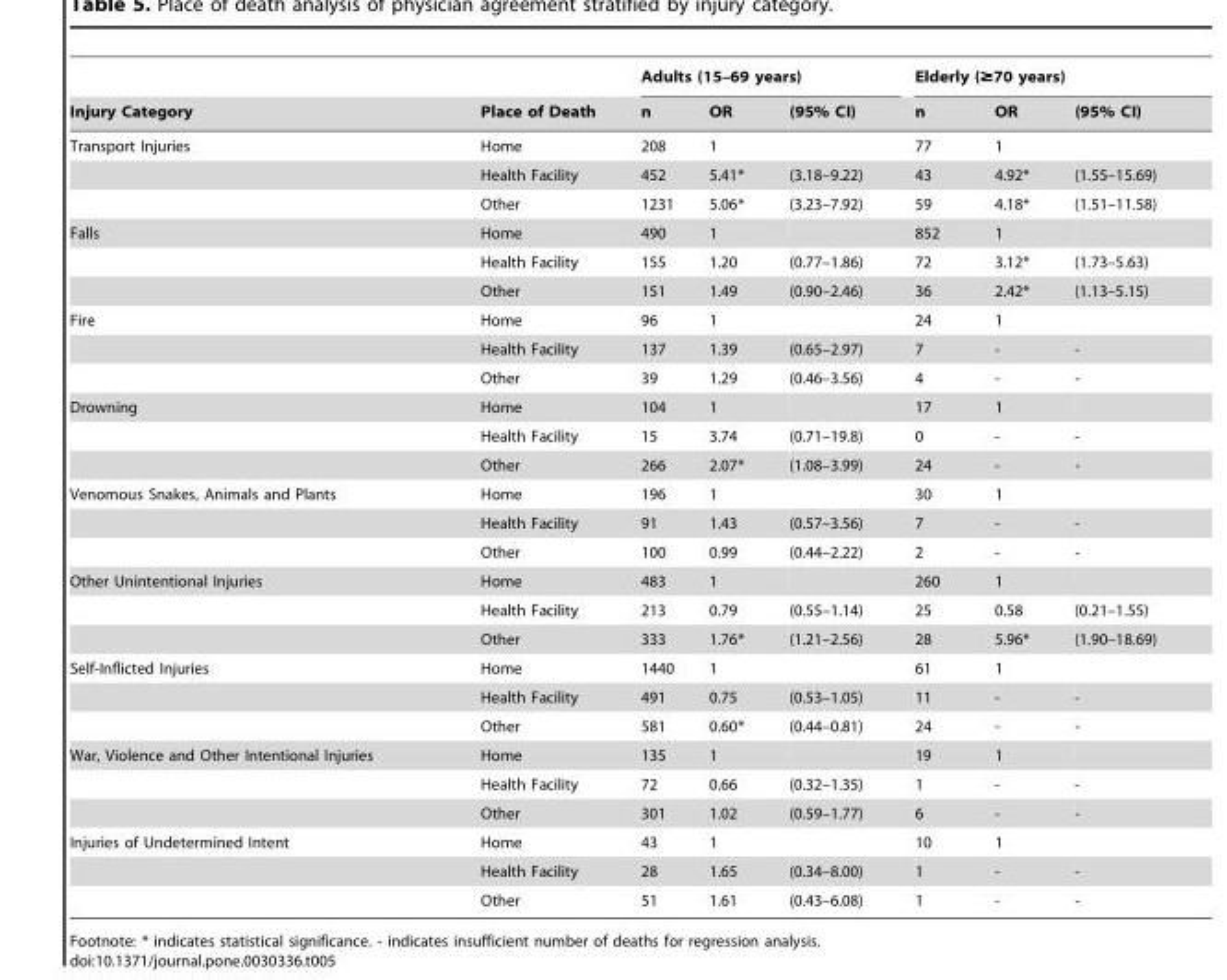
<table><thead><tr><td rowspan="2">Injury Category</td><td rowspan="2">Place of Death</td><td colspan="3">Adults (15–69 years)</td><td colspan="3">Elderly (≥70 years)</td></tr><tr><td>n</td><td>OR</td><td>(95% CI)</td><td>n</td><td>OR</td><td>(95% CI)</td></tr></thead><tbody><tr><td rowspan="3">Transport Injuries</td><td>Home</td><td>208</td><td>1</td><td></td><td>77</td><td>1</td><td></td></tr><tr><td>Health Facility</td><td>452</td><td>5.41*</td><td>(3.18–9.22)</td><td>43</td><td>4.92*</td><td>(1.55–15.69)</td></tr><tr><td>Other</td><td>1231</td><td>5.06*</td><td>(3.23–7.92)</td><td>59</td><td>4.18*</td><td>(1.51–11.58)</td></tr><tr><td rowspan="3">Falls</td><td>Home</td><td>490</td><td>1</td><td></td><td>852</td><td>1</td><td></td></tr><tr><td>Health Facility</td><td>155</td><td>1.20</td><td>(0.77–1.86)</td><td>72</td><td>3.12*</td><td>(1.73–5.63)</td></tr><tr><td>Other</td><td>151</td><td>1.49</td><td>(0.90–2.46)</td><td>36</td><td>2.42*</td><td>(1.13–5.15)</td></tr><tr><td rowspan="3">Fire</td><td>Home</td><td>96</td><td>1</td><td></td><td>24</td><td>1</td><td></td></tr><tr><td>Health Facility</td><td>137</td><td>1.39</td><td>(0.65–2.97)</td><td>7</td><td>-</td><td>-</td></tr><tr><td>Other</td><td>39</td><td>1.29</td><td>(0.46–3.56)</td><td>4</td><td>-</td><td>-</td></tr><tr><td rowspan="3">Drowning</td><td>Home</td><td>104</td><td>1</td><td></td><td>17</td><td>1</td><td></td></tr><tr><td>Health Facility</td><td>15</td><td>3.74</td><td>(0.71–19.8)</td><td>0</td><td>-</td><td>-</td></tr><tr><td>Other</td><td>266</td><td>2.07*</td><td>(1.08–3.99)</td><td>24</td><td>-</td><td>-</td></tr><tr><td rowspan="3">Venomous Snakes, Animals and Plants</td><td>Home</td><td>196</td><td>1</td><td></td><td>30</td><td>1</td><td></td></tr><tr><td>Health Facility</td><td>91</td><td>1.43</td><td>(0.57–3.56)</td><td>7</td><td>-</td><td>-</td></tr><tr><td>Other</td><td>100</td><td>0.99</td><td>(0.44–2.22)</td><td>2</td><td>-</td><td>-</td></tr><tr><td rowspan="3">Other Unintentional Injuries</td><td>Home</td><td>483</td><td>1</td><td></td><td>260</td><td>1</td><td></td></tr><tr><td>Health Facility</td><td>213</td><td>0.79</td><td>(0.55–1.14)</td><td>25</td><td>0.58</td><td>(0.21–1.55)</td></tr><tr><td>Other</td><td>333</td><td>1.76*</td><td>(1.21–2.56)</td><td>28</td><td>5.96*</td><td>(1.90–18.69)</td></tr><tr><td rowspan="3">Self-Inflicted Injuries</td><td>Home</td><td>1440</td><td>1</td><td></td><td>61</td><td>1</td><td></td></tr><tr><td>Health Facility</td><td>491</td><td>0.75</td><td>(0.53–1.05)</td><td>11</td><td>-</td><td>-</td></tr><tr><td>Other</td><td>581</td><td>0.60*</td><td>(0.44–0.81)</td><td>24</td><td>-</td><td>-</td></tr><tr><td rowspan="3">War, Violence and Other Intentional Injuries</td><td>Home</td><td>135</td><td>1</td><td></td><td>19</td><td>1</td><td></td></tr><tr><td>Health Facility</td><td>72</td><td>0.66</td><td>(0.32–1.35)</td><td>1</td><td>-</td><td>-</td></tr><tr><td>Other</td><td>301</td><td>1.02</td><td>(0.59–1.77)</td><td>6</td><td>-</td><td>-</td></tr><tr><td rowspan="3">Injuries of Undetermined Intent</td><td>Home</td><td>43</td><td>1</td><td></td><td>10</td><td>1</td><td></td></tr><tr><td>Health Facility</td><td>28</td><td>1.65</td><td>(0.34–8.00)</td><td>1</td><td>-</td><td>-</td></tr><tr><td>Other</td><td>51</td><td>1.61</td><td>(0.43–6.08)</td><td>1</td><td>-</td><td>-</td></tr></tbody></table>